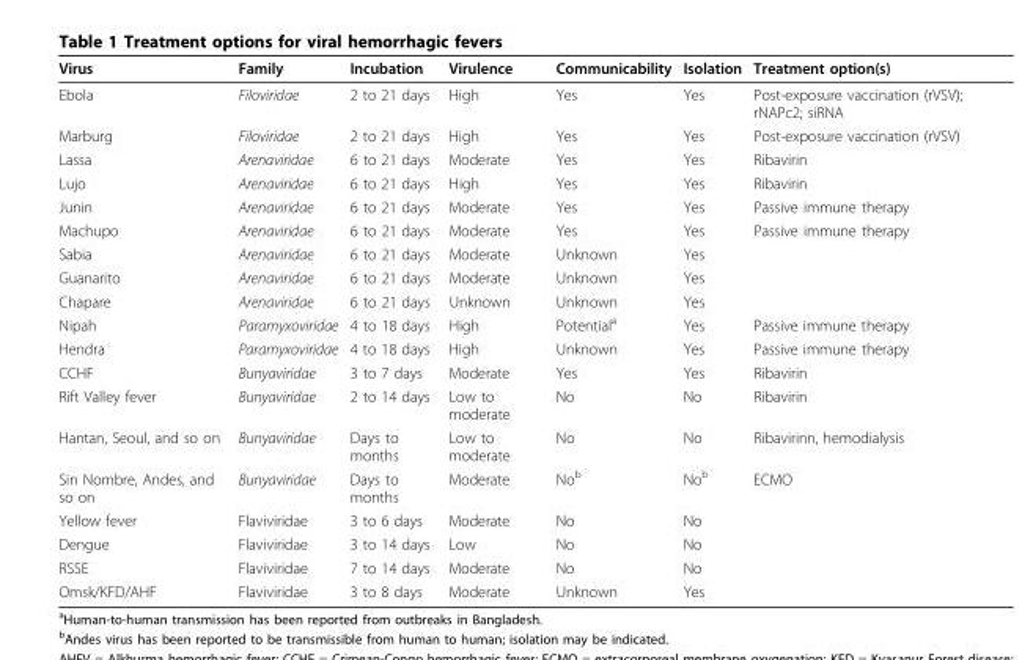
<table><thead><tr><td>Virus</td><td>Family</td><td>Incubation</td><td>Virulence</td><td>Communicability</td><td>Isolation</td><td>Treatment option(s)</td></tr></thead><tbody><tr><td>Ebola</td><td>Filoviridae</td><td>2 to 21 days</td><td>High</td><td>Yes</td><td>Yes</td><td>Post-exposure vaccination (rVSV); rNAPc2; siRNA</td></tr><tr><td>Marburg</td><td>Filoviridae</td><td>2 to 21 days</td><td>High</td><td>Yes</td><td>Yes</td><td>Post-exposure vaccination (rVSV)</td></tr><tr><td>Lassa</td><td>Arenaviridae</td><td>6 to 21 days</td><td>Moderate</td><td>Yes</td><td>Yes</td><td>Ribavirin</td></tr><tr><td>Lujo</td><td>Arenaviridae</td><td>6 to 21 days</td><td>High</td><td>Yes</td><td>Yes</td><td>Ribavirin</td></tr><tr><td>Junin</td><td>Arenaviridae</td><td>6 to 21 days</td><td>Moderate</td><td>Yes</td><td>Yes</td><td>Passive immune therapy</td></tr><tr><td>Machupo</td><td>Arenaviridae</td><td>6 to 21 days</td><td>Moderate</td><td>Yes</td><td>Yes</td><td>Passive immune therapy</td></tr><tr><td>Sabia</td><td>Arenaviridae</td><td>6 to 21 days</td><td>Moderate</td><td>Unknown</td><td>Yes</td><td></td></tr><tr><td>Guanarito</td><td>Arenaviridae</td><td>6 to 21 days</td><td>Moderate</td><td>Unknown</td><td>Yes</td><td></td></tr><tr><td>Chapare</td><td>Arenaviridae</td><td>6 to 21 days</td><td>Unknown</td><td>Unknown</td><td>Yes</td><td></td></tr><tr><td>Nipah</td><td>Paramyxoviridae</td><td>4 to 18 days</td><td>High</td><td>Potential<sup>a</sup></td><td>Yes</td><td>Passive immune therapy</td></tr><tr><td>Hendra</td><td>Paramyxoviridae</td><td>4 to 18 days</td><td>High</td><td>Unknown</td><td>Yes</td><td>Passive immune therapy</td></tr><tr><td>CCHF</td><td>Bunyaviridae</td><td>3 to 7 days</td><td>Moderate</td><td>Yes</td><td>Yes</td><td>Ribavirin</td></tr><tr><td>Rift Valley fever</td><td>Bunyaviridae</td><td>2 to 14 days</td><td>Low to moderate</td><td>No</td><td>No</td><td>Ribavirin</td></tr><tr><td>Hantan, Seoul, and so on</td><td>Bunyaviridae</td><td>Days to months</td><td>Low to moderate</td><td>No</td><td>No</td><td>Ribavirinn, hemodialysis</td></tr><tr><td>Sin Nombre, Andes, and so on</td><td>Bunyaviridae</td><td>Days to months</td><td>Moderate</td><td>No<sup>b</sup></td><td>No<sup>b</sup></td><td>ECMO</td></tr><tr><td>Yellow fever</td><td>Flaviviridae</td><td>3 to 6 days</td><td>Moderate</td><td>No</td><td>No</td><td></td></tr><tr><td>Dengue</td><td>Flaviviridae</td><td>3 to 14 days</td><td>Low</td><td>No</td><td>No</td><td></td></tr><tr><td>RSSE</td><td>Flaviviridae</td><td>7 to 14 days</td><td>Moderate</td><td>No</td><td>No</td><td></td></tr><tr><td>Omsk/KFD/AHF</td><td>Flaviviridae</td><td>3 to 8 days</td><td>Moderate</td><td>Unknown</td><td>Yes</td><td></td></tr></tbody></table>